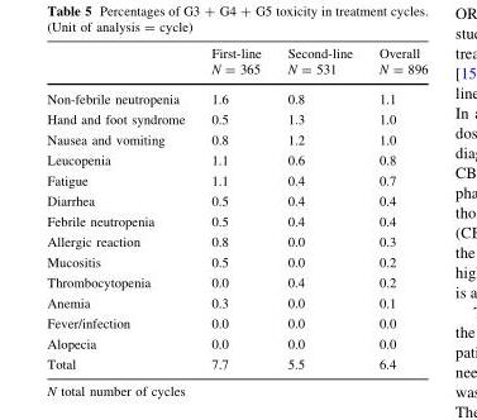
<table><thead><tr><td rowspan="2"></td><td rowspan="2">First-line N = 365</td><td rowspan="2">Second-line N = 531</td><td rowspan="2">Overall N = 896</td></tr><tr></tr></thead><tbody><tr><td>Non-febrile neutropenia</td><td>1.6</td><td>0.8</td><td>1.1</td></tr><tr><td>Hand and foot syndrome</td><td>0.5</td><td>1.3</td><td>1.0</td></tr><tr><td>Nausea and vomiting</td><td>0.8</td><td>1.2</td><td>1.0</td></tr><tr><td>Leucopenia</td><td>1.1</td><td>0.6</td><td>0.8</td></tr><tr><td>Fatigue</td><td>1.1</td><td>0.4</td><td>0.7</td></tr><tr><td>Diarrhea</td><td>0.5</td><td>0.4</td><td>0.4</td></tr><tr><td>Febrile neutropenia</td><td>0.5</td><td>0.4</td><td>0.4</td></tr><tr><td>Allergic reaction</td><td>0.8</td><td>0.0</td><td>0.3</td></tr><tr><td>Mucositis</td><td>0.5</td><td>0.0</td><td>0.2</td></tr><tr><td>Thrombocytopenia</td><td>0.0</td><td>0.4</td><td>0.2</td></tr><tr><td>Anemia</td><td>0.3</td><td>0.0</td><td>0.1</td></tr><tr><td>Fever/infection</td><td>0.0</td><td>0.0</td><td>0.0</td></tr><tr><td>Alopecia</td><td>0.0</td><td>0.0</td><td>0.0</td></tr><tr><td>Total</td><td>7.7</td><td>5.5</td><td>6.4</td></tr></tbody></table>